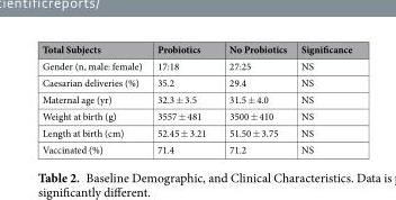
<table><thead><tr><td>Total Subjects</td><td>Probiotics</td><td>No Probiotics</td><td>Significance</td></tr></thead><tbody><tr><td>Gender (n, male: female)</td><td>17:18</td><td>27:25</td><td>NS</td></tr><tr><td>Caesarian deliveries (%)</td><td>35.2</td><td>29.4</td><td>NS</td></tr><tr><td>Maternal age (yr)</td><td>32.3 ± 3.5</td><td>31.5 ± 4.0</td><td>NS</td></tr><tr><td>Weight at birth (g)</td><td>3557 ± 481</td><td>3500 ± 410</td><td>NS</td></tr><tr><td>Length at birth (cm)</td><td>52.45 ± 3.21</td><td>51.50 ± 3.75</td><td>NS</td></tr><tr><td>Vaccinated (%)</td><td>71.4</td><td>71.2</td><td>NS</td></tr></tbody></table>